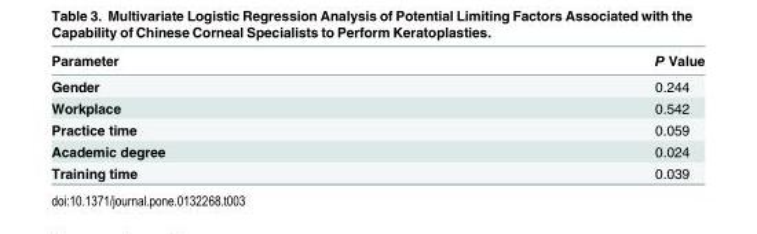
<table><thead><tr><td>Parameter</td><td>P Value</td></tr></thead><tbody><tr><td>Gender</td><td>0.244</td></tr><tr><td>Workplace</td><td>0.542</td></tr><tr><td>Practice time</td><td>0.059</td></tr><tr><td>Academic degree</td><td>0.024</td></tr><tr><td>Training time</td><td>0.039</td></tr></tbody></table>